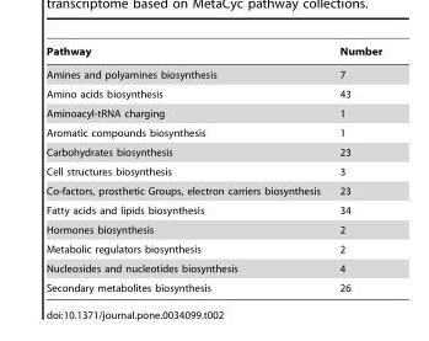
<table><thead><tr><td>Pathway</td><td>Number</td></tr></thead><tbody><tr><td>Amines and polyamines biosynthesis</td><td>7</td></tr><tr><td>Amino acids biosynthesis</td><td>43</td></tr><tr><td>Aminoacyl-tRNA charging</td><td>1</td></tr><tr><td>Aromatic compounds biosynthesis</td><td>1</td></tr><tr><td>Carbohydrates biosynthesis</td><td>23</td></tr><tr><td>Cell structures biosynthesis</td><td>3</td></tr><tr><td>Co-factors, prosthetic Groups, electron carriers biosynthesis</td><td>23</td></tr><tr><td>Fatty acids and lipids biosynthesis</td><td>34</td></tr><tr><td>Hormones biosynthesis</td><td>2</td></tr><tr><td>Metabolic regulators biosynthesis</td><td>2</td></tr><tr><td>Nucleosides and nucleotides biosynthesis</td><td>4</td></tr><tr><td>Secondary metabolites biosynthesis</td><td>26</td></tr></tbody></table>